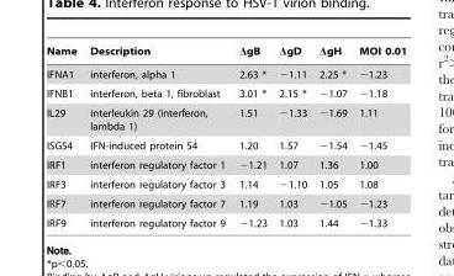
<table><thead><tr><td>Name</td><td>Description</td><td>ΔgB</td><td>ΔgD</td><td>ΔgH</td><td>MOI 0.01</td></tr></thead><tbody><tr><td>IFNA1</td><td>interferon, alpha 1</td><td>2.63 *</td><td>−1.11</td><td>2.25 *</td><td>−1.23</td></tr><tr><td>IFNB1</td><td>interferon, beta 1, fibroblast</td><td>3.01 *</td><td>2.15 *</td><td>−1.07</td><td>−1.18</td></tr><tr><td>IL29</td><td>interleukin 29 (interferon, lambda 1)</td><td>1.51</td><td>−1.33</td><td>−1.69</td><td>1.11</td></tr><tr><td>ISG54</td><td>IFN-induced protein 54</td><td>1.20</td><td>1.57</td><td>−1.54</td><td>−1.45</td></tr><tr><td>IRF1</td><td>interferon regulatory factor 1</td><td>−1.21</td><td>1.07</td><td>1.36</td><td>1.00</td></tr><tr><td>IRF3</td><td>interferon regulatory factor 3</td><td>1.14</td><td>−1.10</td><td>1.05</td><td>1.08</td></tr><tr><td>IRF7</td><td>interferon regulatory factor 7</td><td>1.19</td><td>1.03</td><td>−1.05</td><td>−1.23</td></tr><tr><td>IRF9</td><td>interferon regulatory factor 9</td><td>−1.23</td><td>1.03</td><td>1.44</td><td>−1.33</td></tr></tbody></table>